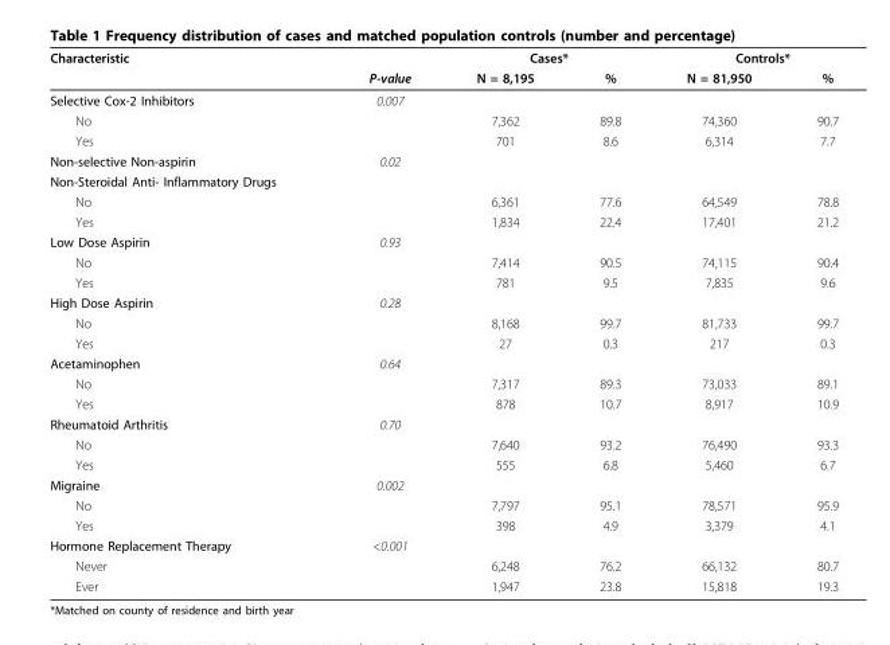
<table><thead><tr><td rowspan="2">Characteristic</td><td rowspan="2">P-value</td><td colspan="2">Cases*</td><td colspan="2">Controls*</td></tr><tr><td>N = 8,195</td><td>%</td><td>N = 81,950</td><td>%</td></tr></thead><tbody><tr><td>Selective Cox-2 Inhibitors</td><td>0.007</td><td></td><td></td><td></td><td></td></tr><tr><td>No</td><td></td><td>7,362</td><td>89.8</td><td>74,360</td><td>90.7</td></tr><tr><td>Yes</td><td></td><td>701</td><td>8.6</td><td>6,314</td><td>7.7</td></tr><tr><td>Non-selective Non-aspirin</td><td>0.02</td><td></td><td></td><td></td><td></td></tr><tr><td colspan="6">Non-Steroidal Anti- Inflammatory Drugs</td></tr><tr><td>No</td><td></td><td>6,361</td><td>77.6</td><td>64,549</td><td>78.8</td></tr><tr><td>Yes</td><td></td><td>1,834</td><td>22.4</td><td>17,401</td><td>21.2</td></tr><tr><td>Low Dose Aspirin</td><td>0.93</td><td></td><td></td><td></td><td></td></tr><tr><td>No</td><td></td><td>7,414</td><td>90.5</td><td>74,115</td><td>90.4</td></tr><tr><td>Yes</td><td></td><td>781</td><td>9.5</td><td>7,835</td><td>9.6</td></tr><tr><td>High Dose Aspirin</td><td>0.28</td><td></td><td></td><td></td><td></td></tr><tr><td>No</td><td></td><td>8,168</td><td>99.7</td><td>81,733</td><td>99.7</td></tr><tr><td>Yes</td><td></td><td>27</td><td>0.3</td><td>217</td><td>0.3</td></tr><tr><td>Acetaminophen</td><td>0.64</td><td></td><td></td><td></td><td></td></tr><tr><td>No</td><td></td><td>7,317</td><td>89.3</td><td>73,033</td><td>89.1</td></tr><tr><td>Yes</td><td></td><td>878</td><td>10.7</td><td>8,917</td><td>10.9</td></tr><tr><td>Rheumatoid Arthritis</td><td>0.70</td><td></td><td></td><td></td><td></td></tr><tr><td>No</td><td></td><td>7,640</td><td>93.2</td><td>76,490</td><td>93.3</td></tr><tr><td>Yes</td><td></td><td>555</td><td>6.8</td><td>5,460</td><td>6.7</td></tr><tr><td>Migraine</td><td>0.002</td><td></td><td></td><td></td><td></td></tr><tr><td>No</td><td></td><td>7,797</td><td>95.1</td><td>78,571</td><td>95.9</td></tr><tr><td>Yes</td><td></td><td>398</td><td>4.9</td><td>3,379</td><td>4.1</td></tr><tr><td>Hormone Replacement Therapy</td><td>&lt;0.001</td><td></td><td></td><td></td><td></td></tr><tr><td>Never</td><td></td><td>6,248</td><td>76.2</td><td>66,132</td><td>80.7</td></tr><tr><td>Ever</td><td></td><td>1,947</td><td>23.8</td><td>15,818</td><td>19.3</td></tr></tbody></table>